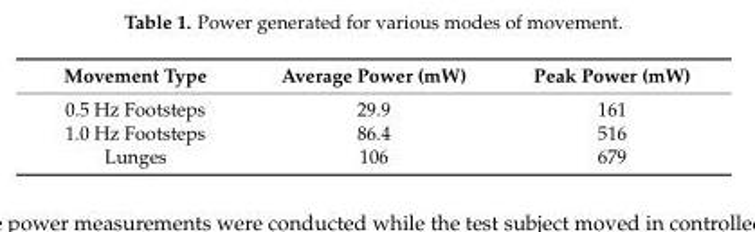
<table><thead><tr><td>Movement Type</td><td>Average Power (mW)</td><td>Peak Power (mW)</td></tr></thead><tbody><tr><td>0.5 Hz Footsteps</td><td>29.9</td><td>161</td></tr><tr><td>1.0 Hz Footsteps</td><td>86.4</td><td>516</td></tr><tr><td>Lunges</td><td>106</td><td>679</td></tr></tbody></table>